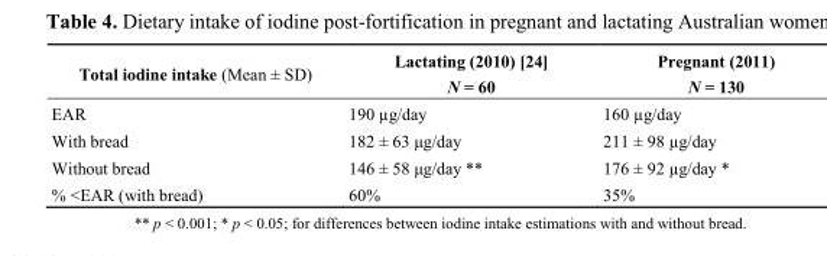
<table><thead><tr><td>Total iodine intake (Mean ± SD)</td><td>Lactating (2010) [24] N = 60</td><td>Pregnant (2011) N = 130</td></tr></thead><tbody><tr><td>EAR</td><td>190 µg/day</td><td>160 µg/day</td></tr><tr><td>With bread</td><td>182 ± 63 μg/day</td><td>211 ± 98 µg/day</td></tr><tr><td>Without bread</td><td>146 ± 58 μg/day **</td><td>176 ± 92 µg/day *</td></tr><tr><td>% &lt;EAR (with bread)</td><td>60%</td><td>35%</td></tr></tbody></table>